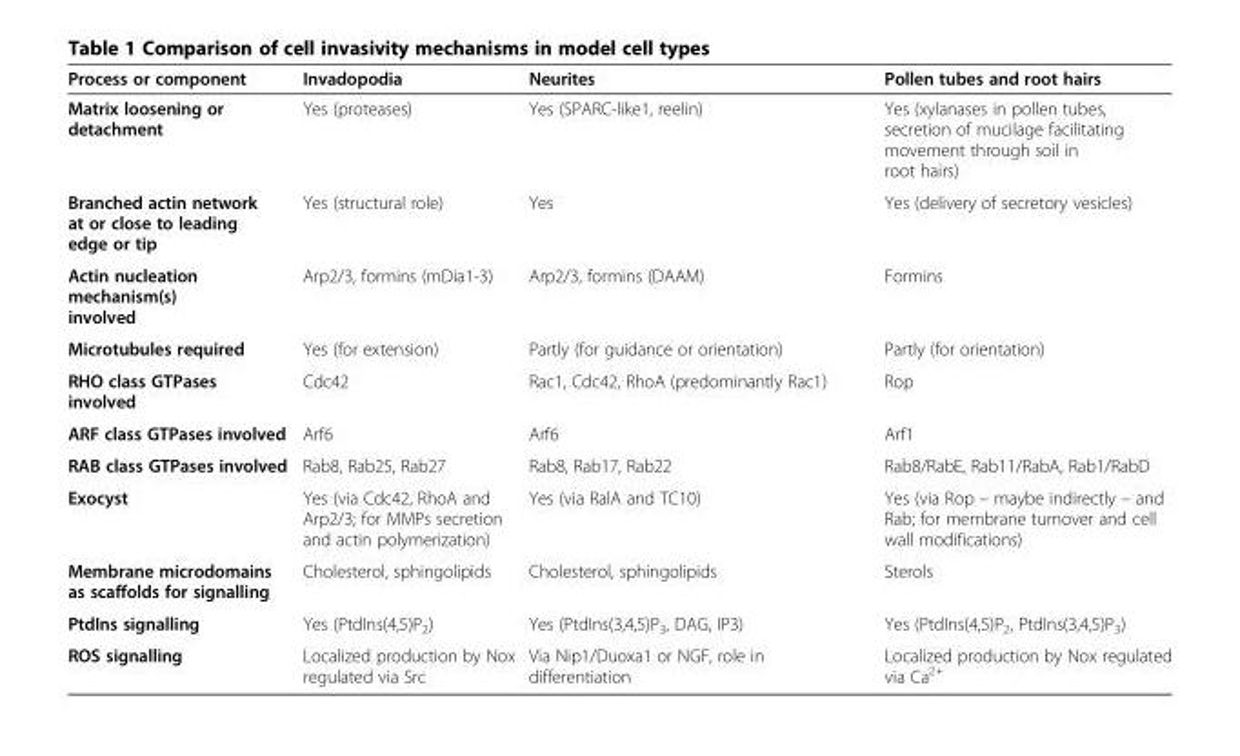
<table><thead><tr><td>Process or component</td><td>Invadopodia</td><td>Neurites</td><td>Pollen tubes and root hairs</td></tr></thead><tbody><tr><td>Matrix loosening or detachment</td><td>Yes (proteases)</td><td>Yes (SPARC-like1, reelin)</td><td>Yes (xylanases in pollen tubes, secretion of mucilage facilitating movement through soil in root hairs)</td></tr><tr><td>Branched actin network at or close to leading edge or tip</td><td>Yes (structural role)</td><td>Yes</td><td>Yes (delivery of secretory vesicles)</td></tr><tr><td>Actin nucleation mechanism(s) involved</td><td>Arp2/3, formins (mDia1-3)</td><td>Arp2/3, formins (DAAM)</td><td>Formins</td></tr><tr><td>Microtubules required</td><td>Yes (for extension)</td><td>Partly (for guidance or orientation)</td><td>Partly (for orientation)</td></tr><tr><td>RHO class GTPases involved</td><td>Cdc42</td><td>Rac1, Cdc42, RhoA (predominantly Rac1)</td><td>Rop</td></tr><tr><td>ARF class GTPases involved</td><td>Arf6</td><td>Arf6</td><td>Arf1</td></tr><tr><td>RAB class GTPases involved</td><td>Rab8, Rab25, Rab27</td><td>Rab8, Rab17, Rab22</td><td>Rab8/RabE, Rab11/RabA, Rab1/RabD</td></tr><tr><td>Exocyst</td><td>Yes (via Cdc42, RhoA and Arp2/3; for MMPs secretion and actin polymerization)</td><td>Yes (via RalA and TC10)</td><td>Yes (via Rop – maybe indirectly – and Rab; for membrane turnover and cell wall modifications)</td></tr><tr><td>Membrane microdomains as scaffolds for signalling</td><td>Cholesterol, sphingolipids</td><td>Cholesterol, sphingolipids</td><td>Sterols</td></tr><tr><td>PtdIns signalling</td><td>Yes (PtdIns(4,5)P<sub>2</sub>)</td><td>Yes (PtdIns(3,4,5)P<sub>3</sub>, DAG, IP3)</td><td>Yes (PtdIns(4,5)P<sub>2</sub>, PtdIns(3,4,5)P<sub>3</sub>)</td></tr><tr><td>ROS signalling</td><td>Localized production by Nox regulated via Src</td><td>Via Nip1/Duoxa1 or NGF, role in differentiation</td><td>Localized production by Nox regulated via Ca<sup>2+</sup></td></tr></tbody></table>